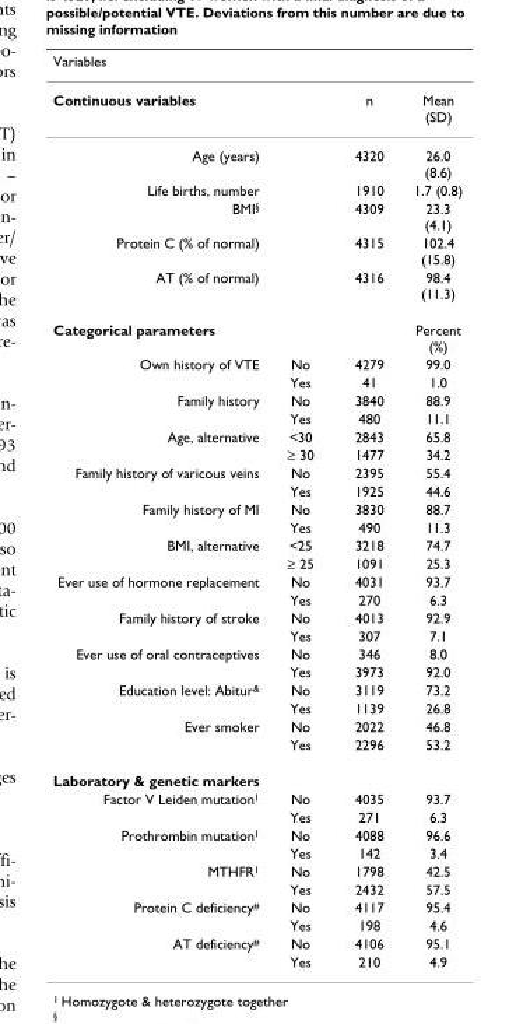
<table><thead><tr><td>Variables</td><td></td><td></td><td></td></tr></thead><tbody><tr><td>Continuous variables</td><td></td><td>n</td><td>Mean (SD)</td></tr><tr><td>Age (years)</td><td></td><td>4320</td><td>26.0 (8.6)</td></tr><tr><td>Life births, number</td><td></td><td>1910</td><td>1.7 (0.8)</td></tr><tr><td>BMI<sup>§</sup></td><td></td><td>4309</td><td>23.3 (4.1)</td></tr><tr><td>Protein C (% of normal)</td><td></td><td>4315</td><td>102.4 (15.8)</td></tr><tr><td>AT (% of normal)</td><td></td><td>4316</td><td>98.4 (11.3)</td></tr><tr><td>Categorical parameters</td><td></td><td></td><td>Percent (%)</td></tr><tr><td rowspan="2">Own history of VTE</td><td>No</td><td>4279</td><td>99.0</td></tr><tr><td>Yes</td><td>41</td><td>1.0</td></tr><tr><td rowspan="2">Family history</td><td>No</td><td>3840</td><td>88.9</td></tr><tr><td>Yes</td><td>480</td><td>11.1</td></tr><tr><td rowspan="2">Age, alternative</td><td>&lt;30</td><td>2843</td><td>65.8</td></tr><tr><td>≥ 30</td><td>1477</td><td>34.2</td></tr><tr><td rowspan="2">Family history of varicous veins</td><td>No</td><td>2395</td><td>55.4</td></tr><tr><td>Yes</td><td>1925</td><td>44.6</td></tr><tr><td rowspan="2">Family history of MI</td><td>No</td><td>3830</td><td>88.7</td></tr><tr><td>Yes</td><td>490</td><td>11.3</td></tr><tr><td rowspan="2">BMI, alternative</td><td>&lt;25</td><td>3218</td><td>74.7</td></tr><tr><td>≥ 25</td><td>1091</td><td>25.3</td></tr><tr><td rowspan="2">Ever use of hormone replacement</td><td>No</td><td>4031</td><td>93.7</td></tr><tr><td>Yes</td><td>270</td><td>6.3</td></tr><tr><td rowspan="2">Family history of stroke</td><td>No</td><td>4013</td><td>92.9</td></tr><tr><td>Yes</td><td>307</td><td>7.1</td></tr><tr><td rowspan="2">Ever use of oral contraceptives</td><td>No</td><td>346</td><td>8.0</td></tr><tr><td>Yes</td><td>3973</td><td>92.0</td></tr><tr><td rowspan="2">Education level: Abitur<sup>&amp;</sup></td><td>No</td><td>3119</td><td>73.2</td></tr><tr><td>Yes</td><td>1139</td><td>26.8</td></tr><tr><td rowspan="2">Ever smoker</td><td>No</td><td>2022</td><td>46.8</td></tr><tr><td>Yes</td><td>2296</td><td>53.2</td></tr><tr><td colspan="4">Laboratory &amp; genetic markers</td></tr><tr><td rowspan="2">Factor V Leiden mutation<sup>1</sup></td><td>No</td><td>4035</td><td>93.7</td></tr><tr><td>Yes</td><td>271</td><td>6.3</td></tr><tr><td rowspan="2">Prothrombin mutation<sup>1</sup></td><td>No</td><td>4088</td><td>96.6</td></tr><tr><td>Yes</td><td>142</td><td>3.4</td></tr><tr><td rowspan="2">MTHFR<sup>1</sup></td><td>No</td><td>1798</td><td>42.5</td></tr><tr><td>Yes</td><td>2432</td><td>57.5</td></tr><tr><td rowspan="2">Protein C deficiency<sup>#</sup></td><td>No</td><td>4117</td><td>95.4</td></tr><tr><td>Yes</td><td>198</td><td>4.6</td></tr><tr><td rowspan="2">AT deficiency<sup>#</sup></td><td>No</td><td>4106</td><td>95.1</td></tr><tr><td>Yes</td><td>210</td><td>4.9</td></tr></tbody></table>